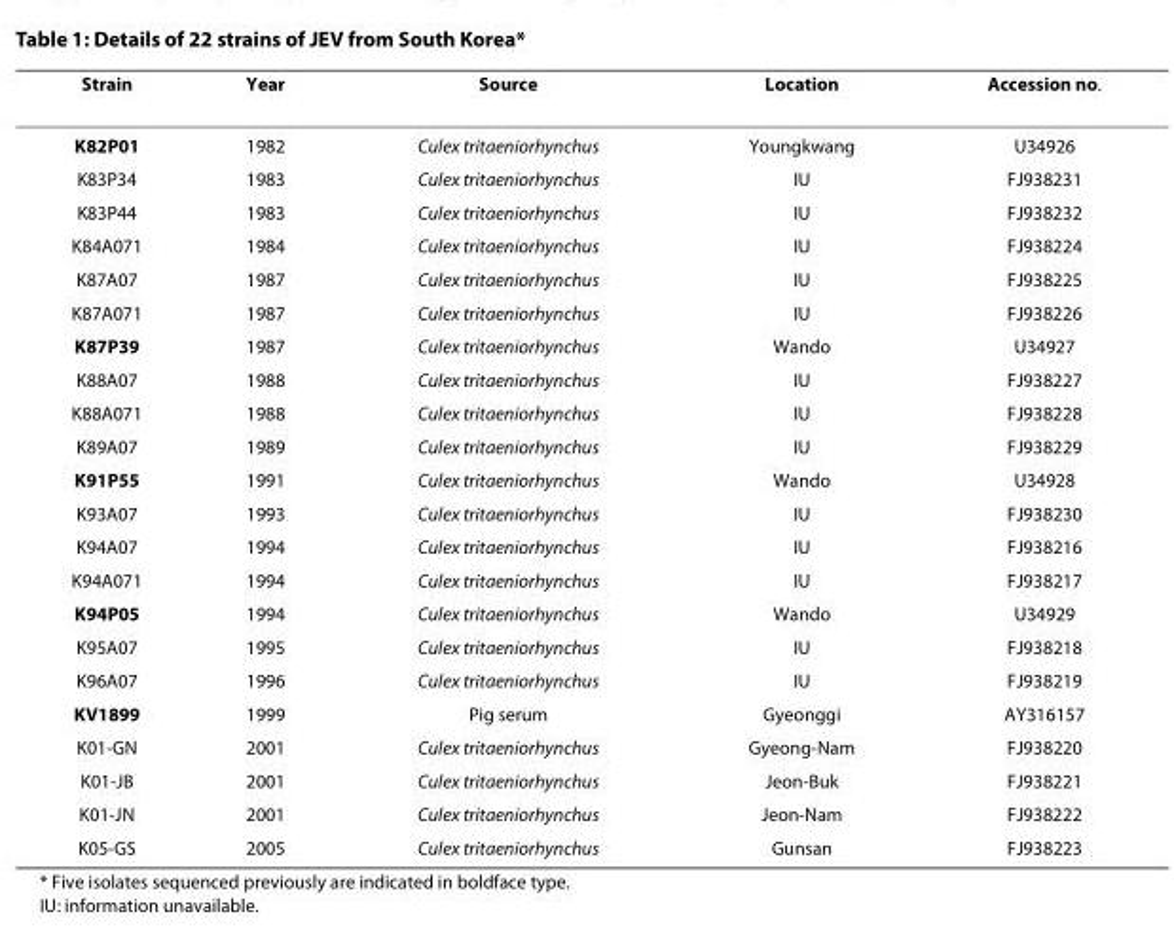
<table><thead><tr><td>Strain</td><td>Year</td><td>Source</td><td>Location</td><td>Accession no.</td></tr></thead><tbody><tr><td>K82P01</td><td>1982</td><td>Culex tritaeniorhynchus</td><td>Youngkwang</td><td>U34926</td></tr><tr><td>K83P34</td><td>1983</td><td>Culex tritaeniorhynchus</td><td>IU</td><td>FJ938231</td></tr><tr><td>K83P44</td><td>1983</td><td>Culex tritaeniorhynchus</td><td>IU</td><td>FJ938232</td></tr><tr><td>K84A071</td><td>1984</td><td>Culex tritaeniorhynchus</td><td>IU</td><td>FJ938224</td></tr><tr><td>K87A07</td><td>1987</td><td>Culex tritaeniorhynchus</td><td>IU</td><td>FJ938225</td></tr><tr><td>K87A071</td><td>1987</td><td>Culex tritaeniorhynchus</td><td>IU</td><td>FJ938226</td></tr><tr><td>K87P39</td><td>1987</td><td>Culex tritaeniorhynchus</td><td>Wando</td><td>U34927</td></tr><tr><td>K88A07</td><td>1988</td><td>Culex tritaeniorhynchus</td><td>IU</td><td>FJ938227</td></tr><tr><td>K88A071</td><td>1988</td><td>Culex tritaeniorhynchus</td><td>IU</td><td>FJ938228</td></tr><tr><td>K89A07</td><td>1989</td><td>Culex tritaeniorhynchus</td><td>IU</td><td>FJ938229</td></tr><tr><td>K91P55</td><td>1991</td><td>Culex tritaeniorhynchus</td><td>Wando</td><td>U34928</td></tr><tr><td>K93A07</td><td>1993</td><td>Culex tritaeniorhynchus</td><td>IU</td><td>FJ938230</td></tr><tr><td>K94A07</td><td>1994</td><td>Culex tritaeniorhynchus</td><td>IU</td><td>FJ938216</td></tr><tr><td>K94A071</td><td>1994</td><td>Culex tritaeniorhynchus</td><td>IU</td><td>FJ938217</td></tr><tr><td>K94P05</td><td>1994</td><td>Culex tritaeniorhynchus</td><td>Wando</td><td>U34929</td></tr><tr><td>K95A07</td><td>1995</td><td>Culex tritaeniorhynchus</td><td>IU</td><td>FJ938218</td></tr><tr><td>K96A07</td><td>1996</td><td>Culex tritaeniorhynchus</td><td>IU</td><td>FJ938219</td></tr><tr><td>KV1899</td><td>1999</td><td>Pig serum</td><td>Gyeonggi</td><td>AY316157</td></tr><tr><td>K01-GN</td><td>2001</td><td>Culex tritaeniorhynchus</td><td>Gyeong-Nam</td><td>FJ938220</td></tr><tr><td>K01-JB</td><td>2001</td><td>Culex tritaeniorhynchus</td><td>Jeon-Buk</td><td>FJ938221</td></tr><tr><td>K01-JN</td><td>2001</td><td>Culex tritaeniorhynchus</td><td>Jeon-Nam</td><td>FJ938222</td></tr><tr><td>K05-GS</td><td>2005</td><td>Culex tritaeniorhynchus</td><td>Gunsan</td><td>FJ938223</td></tr></tbody></table>